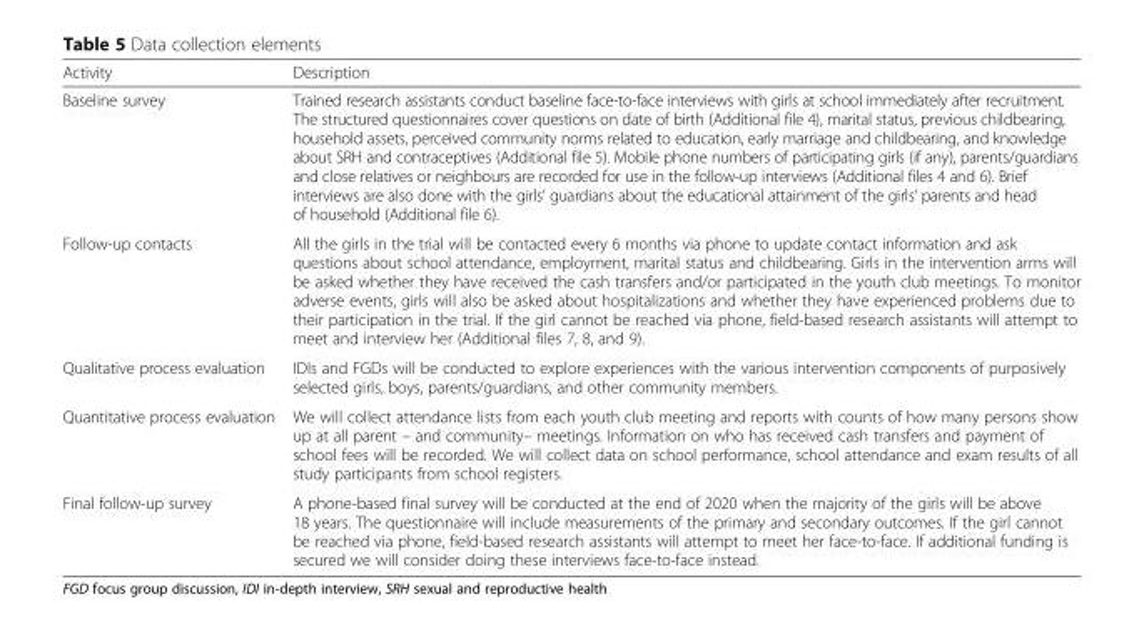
<table><thead><tr><td>Activity</td><td>Description</td></tr></thead><tbody><tr><td>Baseline survey</td><td>Trained research assistants conduct baseline face-to-face interviews with girls at school immediately after recruitment. The structured questionnaires cover questions on date of birth (Additional file 4), marital status, previous childbearing, household assets, perceived community norms related to education, early marriage and childbearing, and knowledge about SRH and contraceptives (Additional file 5). Mobile phone numbers of participating girls (if any), parents/guardians and close relatives or neighbours are recorded for use in the follow-up interviews (Additional files 4 and 6). Brief interviews are also done with the girls’ guardians about the educational attainment of the girls’ parents and head of household (Additional file 6).</td></tr><tr><td>Follow-up contacts</td><td>All the girls in the trial will be contacted every 6 months via phone to update contact information and ask questions about school attendance, employment, marital status and childbearing. Girls in the intervention arms will be asked whether they have received the cash transfers and/or participated in the youth club meetings. To monitor adverse events, girls will also be asked about hospitalizations and whether they have experienced problems due to their participation in the trial. If the girl cannot be reached via phone, field-based research assistants will attempt to meet and interview her (Additional files 7, 8, and 9).</td></tr><tr><td>Qualitative process evaluation</td><td>IDIs and FGDs will be conducted to explore experiences with the various intervention components of purposively selected girls, boys, parents/guardians, and other community members.</td></tr><tr><td>Quantitative process evaluation</td><td>We will collect attendance lists from each youth club meeting and reports with counts of how many persons show up at all parent – and community– meetings. Information on who has received cash transfers and payment of school fees will be recorded. We will collect data on school performance, school attendance and exam results of all study participants from school registers.</td></tr><tr><td>Final follow-up survey</td><td>A phone-based final survey will be conducted at the end of 2020 when the majority of the girls will be above 18 years. The questionnaire will include measurements of the primary and secondary outcomes. If the girl cannot be reached via phone, field-based research assistants will attempt to meet her face-to-face. If additional funding is secured we will consider doing these interviews face-to-face instead.</td></tr></tbody></table>